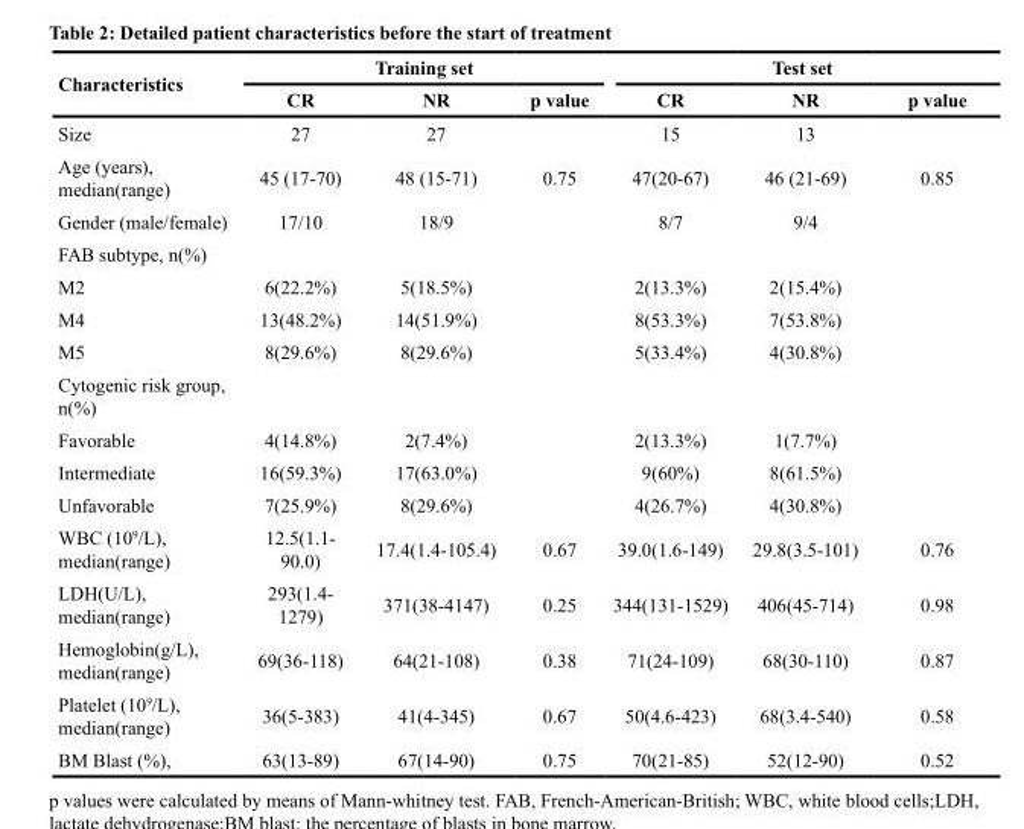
<table><thead><tr><td rowspan="2">Characteristics</td><td colspan="3">Training set</td><td colspan="3">Test set</td></tr><tr><td>CR</td><td>NR</td><td>p value</td><td>CR</td><td>NR</td><td>p value</td></tr></thead><tbody><tr><td>Size</td><td>27</td><td>27</td><td></td><td>15</td><td>13</td><td></td></tr><tr><td>Age (years), median(range)</td><td>45 (17-70)</td><td>48 (15-71)</td><td>0.75</td><td>47(20-67)</td><td>46 (21-69)</td><td>0.85</td></tr><tr><td>Gender (male/female)</td><td>17/10</td><td>18/9</td><td></td><td>8/7</td><td>9/4</td><td></td></tr><tr><td colspan="7">FAB subtype, n(%)</td></tr><tr><td>M2</td><td>6(22.2%)</td><td>5(18.5%)</td><td></td><td>2(13.3%)</td><td>2(15.4%)</td><td></td></tr><tr><td>M4</td><td>13(48.2%)</td><td>14(51.9%)</td><td></td><td>8(53.3%)</td><td>7(53.8%)</td><td></td></tr><tr><td>M5</td><td>8(29.6%)</td><td>8(29.6%)</td><td></td><td>5(33.4%)</td><td>4(30.8%)</td><td></td></tr><tr><td colspan="7">Cytogenic risk group, n(%)</td></tr><tr><td>Favorable</td><td>4(14.8%)</td><td>2(7.4%)</td><td></td><td>2(13.3%)</td><td>1(7.7%)</td><td></td></tr><tr><td>Intermediate</td><td>16(59.3%)</td><td>17(63.0%)</td><td></td><td>9(60%)</td><td>8(61.5%)</td><td></td></tr><tr><td>Unfavorable</td><td>7(25.9%)</td><td>8(29.6%)</td><td></td><td>4(26.7%)</td><td>4(30.8%)</td><td></td></tr><tr><td>WBC (10<sup>9</sup>/L), median(range)</td><td>12.5(1.1- 90.0)</td><td>17.4(1.4-105.4)</td><td>0.67</td><td>39.0(1.6-149)</td><td>29.8(3.5-101)</td><td>0.76</td></tr><tr><td>LDH(U/L), median(range)</td><td>293(1.4- 1279)</td><td>371(38-4147)</td><td>0.25</td><td>344(131-1529)</td><td>406(45-714)</td><td>0.98</td></tr><tr><td>Hemoglobin(g/L), median(range)</td><td>69(36-118)</td><td>64(21-108)</td><td>0.38</td><td>71(24-109)</td><td>68(30-110)</td><td>0.87</td></tr><tr><td>Platelet (10<sup>9</sup>/L), median(range)</td><td>36(5-383)</td><td>41(4-345)</td><td>0.67</td><td>50(4.6-423)</td><td>68(3.4-540)</td><td>0.58</td></tr><tr><td>BM Blast (%),</td><td>63(13-89)</td><td>67(14-90)</td><td>0.75</td><td>70(21-85)</td><td>52(12-90)</td><td>0.52</td></tr></tbody></table>